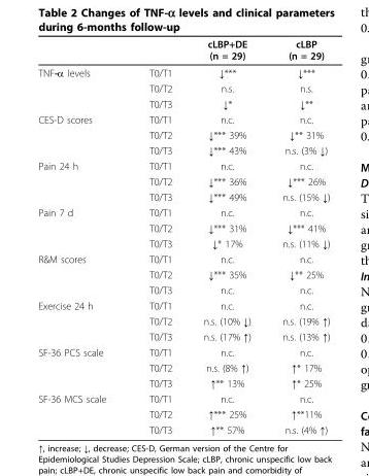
<table><thead><tr><td></td><td></td><td>cLBP+DE (n = 29)</td><td>cLBP (n = 29)</td></tr></thead><tbody><tr><td rowspan="3">TNF-α levels</td><td>T0/T1</td><td>↓***</td><td>↓***</td></tr><tr><td>T0/T2</td><td>n.s.</td><td>n.s.</td></tr><tr><td>T0/T3</td><td>↓*</td><td>↓**</td></tr><tr><td rowspan="3">CES-D scores</td><td>T0/T1</td><td>n.c.</td><td>n.c.</td></tr><tr><td>T0/T2</td><td>↓*** 39%</td><td>↓** 31%</td></tr><tr><td>T0/T3</td><td>↓*** 43%</td><td>n.s. (3% ↓)</td></tr><tr><td rowspan="3">Pain 24 h</td><td>T0/T1</td><td>n.c.</td><td>n.c.</td></tr><tr><td>T0/T2</td><td>↓*** 36%</td><td>↓*** 26%</td></tr><tr><td>T0/T3</td><td>↓*** 49%</td><td>n.s. (15% ↓)</td></tr><tr><td rowspan="3">Pain 7 d</td><td>T0/T1</td><td>n.c.</td><td>n.c.</td></tr><tr><td>T0/T2</td><td>↓*** 31%</td><td>↓*** 41%</td></tr><tr><td>T0/T3</td><td>↓* 17%</td><td>n.s. (11% ↓)</td></tr><tr><td rowspan="3">R&amp;M scores</td><td>T0/T1</td><td>n.c.</td><td>n.c.</td></tr><tr><td>T0/T2</td><td>↓*** 35%</td><td>↓** 25%</td></tr><tr><td>T0/T3</td><td>n.c.</td><td>n.c.</td></tr><tr><td rowspan="3">Exercise 24 h</td><td>T0/T1</td><td>n.c.</td><td>n.c.</td></tr><tr><td>T0/T2</td><td>n.s. (10% ↓)</td><td>n.s. (19% ↑)</td></tr><tr><td>T0/T3</td><td>n.s. (17% ↑)</td><td>n.s. (13% ↑)</td></tr><tr><td rowspan="3">SF-36 PCS scale</td><td>T0/T1</td><td>n.c.</td><td>n.c.</td></tr><tr><td>T0/T2</td><td>n.s. (8% ↑)</td><td>↑* 17%</td></tr><tr><td>T0/T3</td><td>↑** 13%</td><td>↑* 25%</td></tr><tr><td rowspan="3">SF-36 MCS scale</td><td>T0/T1</td><td>n.c.</td><td>n.c.</td></tr><tr><td>T0/T2</td><td>↑*** 25%</td><td>↑**11%</td></tr><tr><td>T0/T3</td><td>↑** 57%</td><td>n.s. (4% ↑)</td></tr></tbody></table>